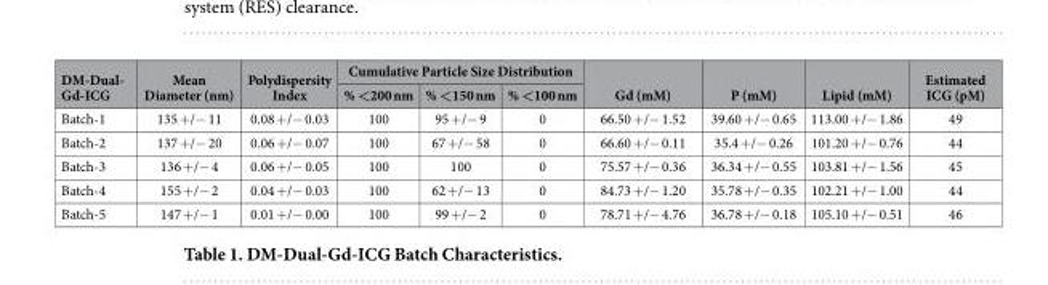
<table><thead><tr><td rowspan="2">DM-Dual- Gd-ICG</td><td rowspan="2">Mean Diameter (nm)</td><td rowspan="2">Polydispersity Index</td><td colspan="3">Cumulative Particle Size Distribution</td><td rowspan="2">Gd (mM)</td><td rowspan="2">P (mM)</td><td rowspan="2">Lipid (mM)</td><td rowspan="2">Estimated ICG (pM)</td></tr><tr><td>% &lt;200 nm</td><td>% &lt;150 nm</td><td>% &lt;100 nm</td></tr></thead><tbody><tr><td>Batch-1</td><td>135 + /− 11</td><td>0.08 + /− 0.03</td><td>100</td><td>95 + /− 9</td><td>0</td><td>66.50 + /− 1.52</td><td>39.60 + /− 0.65</td><td>113.00 + /− 1.86</td><td>49</td></tr><tr><td>Batch-2</td><td>137 + /− 20</td><td>0.06 + /− 0.07</td><td>100</td><td>67 + /− 58</td><td>0</td><td>66.60 + /− 0.11</td><td>35.4 + /− 0.26</td><td>101.20 + /− 0.76</td><td>44</td></tr><tr><td>Batch-3</td><td>136 + /− 4</td><td>0.06 + /− 0.05</td><td>100</td><td>100</td><td>0</td><td>75.57 + /− 0.36</td><td>36.34 + /− 0.55</td><td>103.81 + /− 1.56</td><td>45</td></tr><tr><td>Batch-4</td><td>155 + /− 2</td><td>0.04 + /− 0.03</td><td>100</td><td>62 + /− 13</td><td>0</td><td>84.73 + /− 1.20</td><td>35.78 + /− 0.35</td><td>102.21 + /− 1.00</td><td>44</td></tr><tr><td>Batch-5</td><td>147 + /− 1</td><td>0.01 + /− 0.00</td><td>100</td><td>99 + /− 2</td><td>0</td><td>78.71 + /− 4.76</td><td>36.78 + /− 0.18</td><td>105.10 + /− 0.51</td><td>46</td></tr></tbody></table>